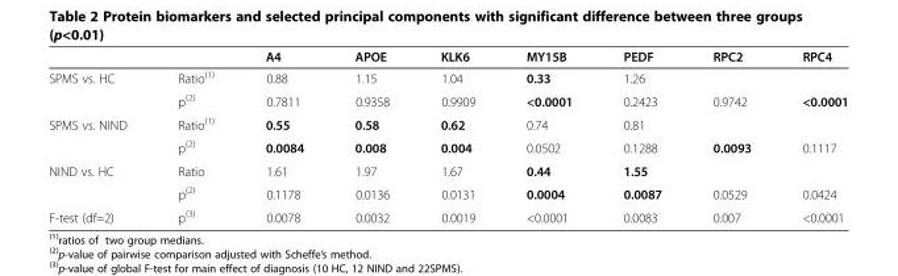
<table><thead><tr><td></td><td></td><td>A4</td><td>APOE</td><td>KLK6</td><td>MY15B</td><td>PEDF</td><td>RPC2</td><td>RPC4</td></tr></thead><tbody><tr><td rowspan="2">SPMS vs. HC</td><td>Ratio<sup>(1)</sup></td><td>0.88</td><td>1.15</td><td>1.04</td><td>0.33</td><td>1.26</td><td></td><td></td></tr><tr><td>p<sup>(2)</sup></td><td>0.7811</td><td>0.9358</td><td>0.9909</td><td>&lt;0.0001</td><td>0.2423</td><td>0.9742</td><td>&lt;0.0001</td></tr><tr><td rowspan="2">SPMS vs. NIND</td><td>Ratio<sup>(1)</sup></td><td>0.55</td><td>0.58</td><td>0.62</td><td>0.74</td><td>0.81</td><td></td><td></td></tr><tr><td>p<sup>(2)</sup></td><td>0.0084</td><td>0.008</td><td>0.004</td><td>0.0502</td><td>0.1288</td><td>0.0093</td><td>0.1117</td></tr><tr><td rowspan="2">NIND vs. HC</td><td>Ratio</td><td>1.61</td><td>1.97</td><td>1.67</td><td>0.44</td><td>1.55</td><td></td><td></td></tr><tr><td>p<sup>(2)</sup></td><td>0.1178</td><td>0.0136</td><td>0.0131</td><td>0.0004</td><td>0.0087</td><td>0.0529</td><td>0.0424</td></tr><tr><td>F-test (df=2)</td><td>p<sup>(3)</sup></td><td>0.0078</td><td>0.0032</td><td>0.0019</td><td>&lt;0.0001</td><td>0.0083</td><td>0.007</td><td>&lt;0.0001</td></tr></tbody></table>